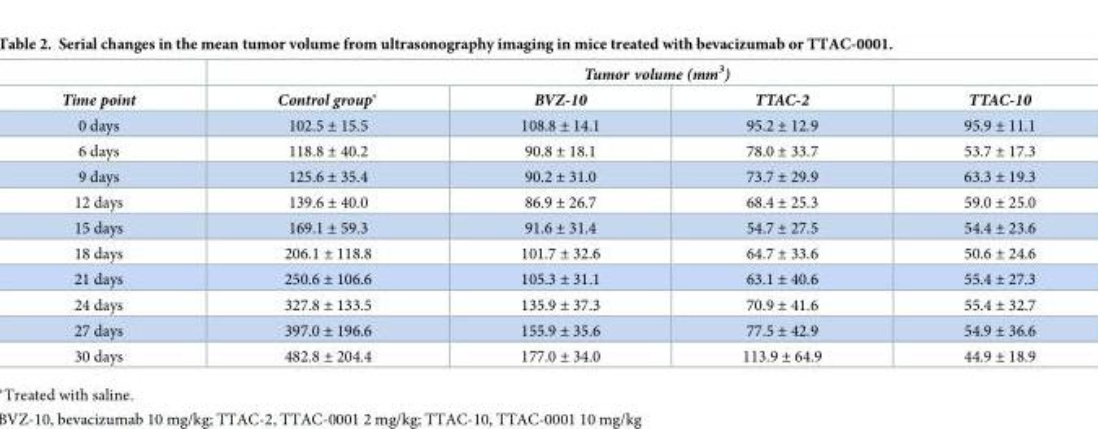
<table><thead><tr><td rowspan="2">Time point</td><td colspan="4">Tumor volume (mm<sup>3</sup>)</td></tr><tr><td>Control group*</td><td>BVZ-10</td><td>TTAC-2</td><td>TTAC-10</td></tr></thead><tbody><tr><td>0 days</td><td>102.5 ± 15.5</td><td>108.8 ± 14.1</td><td>95.2 ± 12.9</td><td>95.9 ± 11.1</td></tr><tr><td>6 days</td><td>118.8 ± 40.2</td><td>90.8 ± 18.1</td><td>78.0 ± 33.7</td><td>53.7 ± 17.3</td></tr><tr><td>9 days</td><td>125.6 ± 35.4</td><td>90.2 ± 31.0</td><td>73.7 ± 29.9</td><td>63.3 ± 19.3</td></tr><tr><td>12 days</td><td>139.6 ± 40.0</td><td>86.9 ± 26.7</td><td>68.4 ± 25.3</td><td>59.0 ± 25.0</td></tr><tr><td>15 days</td><td>169.1 ± 59.3</td><td>91.6 ± 31.4</td><td>54.7 ± 27.5</td><td>54.4 ± 23.6</td></tr><tr><td>18 days</td><td>206.1 ± 118.8</td><td>101.7 ± 32.6</td><td>64.7 ± 33.6</td><td>50.6 ± 24.6</td></tr><tr><td>21 days</td><td>250.6 ± 106.6</td><td>105.3 ± 31.1</td><td>63.1 ± 40.6</td><td>55.4 ± 27.3</td></tr><tr><td>24 days</td><td>327.8 ± 133.5</td><td>135.9 ± 37.3</td><td>70.9 ± 41.6</td><td>55.4 ± 32.7</td></tr><tr><td>27 days</td><td>397.0 ± 196.6</td><td>155.9 ± 35.6</td><td>77.5 ± 42.9</td><td>54.9 ± 36.6</td></tr><tr><td>30 days</td><td>482.8 ± 204.4</td><td>177.0 ± 34.0</td><td>113.9 ± 64.9</td><td>44.9 ± 18.9</td></tr></tbody></table>